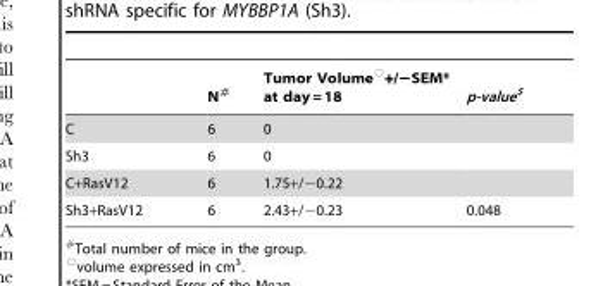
<table><thead><tr><td></td><td>N#</td><td>Tumor Volume#+/2SEM* at day = 18</td><td>p-value$</td></tr></thead><tbody><tr><td>C</td><td>6</td><td>0</td><td></td></tr><tr><td>Sh3</td><td>6</td><td>0</td><td></td></tr><tr><td>C+RasV12</td><td>6</td><td>1.75+/−0.22</td><td></td></tr><tr><td>Sh3+RasV12</td><td>6</td><td>2.43+/−0.23</td><td>0.048</td></tr></tbody></table>